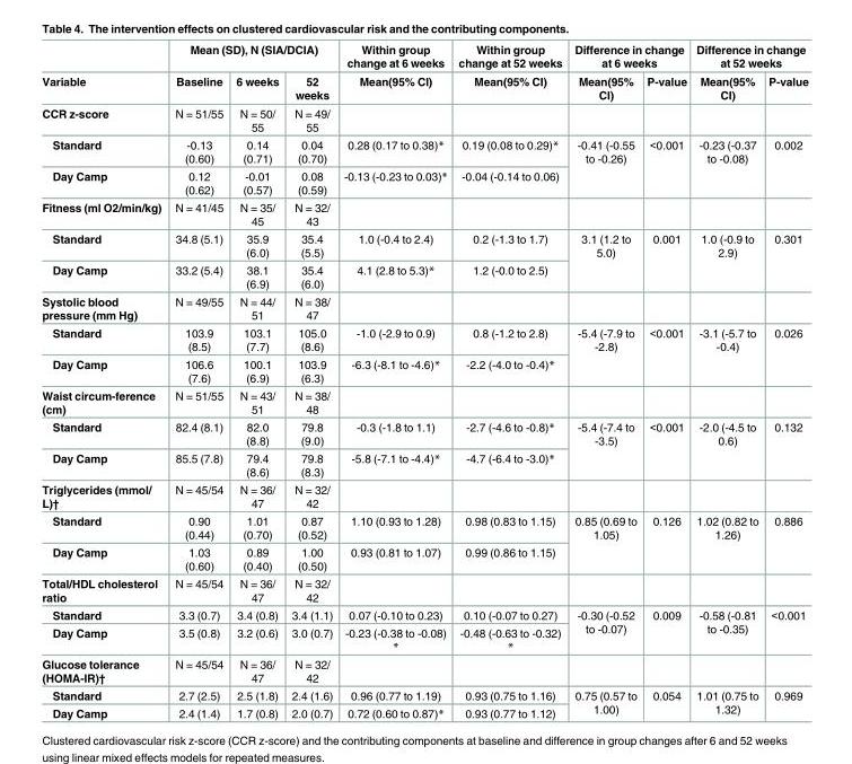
<table><thead><tr><td rowspan="2">Variable</td><td colspan="3">Mean (SD), N (SIA/DCIA)</td><td rowspan="2">Within group change at 6 weeks Mean(95% CI)</td><td rowspan="2">Within group change at 52 weeks Mean(95% CI)</td><td colspan="2">Difference in change at 6 weeks</td><td colspan="2">Difference in change at 52 weeks</td></tr><tr><td>Baseline</td><td>6 weeks</td><td>52 weeks</td><td>Mean(95% CI)</td><td>P-value</td><td>Mean(95% CI)</td><td>P-value</td></tr></thead><tbody><tr><td>CCR z-score</td><td>N = 51/55</td><td>N = 50/ 55</td><td>N = 49/ 55</td><td></td><td></td><td></td><td></td><td></td><td></td></tr><tr><td>Standard</td><td>-0.13 (0.60)</td><td>0.14 (0.71)</td><td>0.04 (0.70)</td><td>0.28 (0.17 to 0.38)*</td><td>0.19 (0.08 to 0.29)*</td><td rowspan="2">-0.41 (-0.55 to -0.26)</td><td rowspan="2">&lt;0.001</td><td rowspan="2">-0.23 (-0.37 to -0.08)</td><td rowspan="2">0.002</td></tr><tr><td>Day Camp</td><td>0.12 (0.62)</td><td>-0.01 (0.57)</td><td>0.08 (0.59)</td><td>-0.13 (-0.23 to 0.03)*</td><td>-0.04 (-0.14 to 0.06)</td></tr><tr><td>Fitness (ml O2/min/kg)</td><td>N = 41/45</td><td>N = 35/ 45</td><td>N = 32/ 43</td><td></td><td></td><td></td><td></td><td></td><td></td></tr><tr><td>Standard</td><td>34.8 (5.1)</td><td>35.9 (6.0)</td><td>35.4 (5.5)</td><td>1.0 (-0.4 to 2.4)</td><td>0.2 (-1.3 to 1.7)</td><td rowspan="2">3.1 (1.2 to 5.0)</td><td rowspan="2">0.001</td><td rowspan="2">1.0 (-0.9 to 2.9)</td><td rowspan="2">0.301</td></tr><tr><td>Day Camp</td><td>33.2 (5.4)</td><td>38.1 (6.9)</td><td>35.4 (6.0)</td><td>4.1 (2.8 to 5.3)*</td><td>1.2 (-0.0 to 2.5)</td></tr><tr><td>Systolic blood pressure (mm Hg)</td><td>N = 49/55</td><td>N = 44/ 51</td><td>N = 38/ 47</td><td></td><td></td><td></td><td></td><td></td><td></td></tr><tr><td>Standard</td><td>103.9 (8.5)</td><td>103.1 (7.7)</td><td>105.0 (8.6)</td><td>-1.0 (-2.9 to 0.9)</td><td>0.8 (-1.2 to 2.8)</td><td rowspan="2">-5.4 (-7.9 to -2.8)</td><td rowspan="2">&lt;0.001</td><td rowspan="2">-3.1 (-5.7 to -0.4)</td><td rowspan="2">0.026</td></tr><tr><td>Day Camp</td><td>106.6 (7.6)</td><td>100.1 (6.9)</td><td>103.9 (6.3)</td><td>-6.3 (-8.1 to -4.6)*</td><td>-2.2 (-4.0 to -0.4)*</td></tr><tr><td>Waist circum-ference (cm)</td><td>N = 51/55</td><td>N = 43/ 51</td><td>N = 38/ 48</td><td></td><td></td><td></td><td></td><td></td><td></td></tr><tr><td>Standard</td><td>82.4 (8.1)</td><td>82.0 (8.8)</td><td>79.8 (9.0)</td><td>-0.3 (-1.8 to 1.1)</td><td>-2.7 (-4.6 to -0.8)*</td><td rowspan="2">-5.4 (-7.4 to -3.5)</td><td rowspan="2">&lt;0.001</td><td rowspan="2">-2.0 (-4.5 to 0.6)</td><td rowspan="2">0.132</td></tr><tr><td>Day Camp</td><td>85.5 (7.8)</td><td>79.4 (8.6)</td><td>79.8 (8.3)</td><td>-5.8 (-7.1 to -4.4)*</td><td>-4.7 (-6.4 to -3.0)*</td></tr><tr><td>Triglycerides (mmol/ L)†</td><td>N = 45/54</td><td>N = 36/ 47</td><td>N = 32/ 42</td><td></td><td></td><td></td><td></td><td></td><td></td></tr><tr><td>Standard</td><td>0.90 (0.44)</td><td>1.01 (0.70)</td><td>0.87 (0.52)</td><td>1.10 (0.93 to 1.28)</td><td>0.98 (0.83 to 1.15)</td><td rowspan="2">0.85 (0.69 to 1.05)</td><td rowspan="2">0.126</td><td rowspan="2">1.02 (0.82 to 1.26)</td><td rowspan="2">0.886</td></tr><tr><td>Day Camp</td><td>1.03 (0.60)</td><td>0.89 (0.40)</td><td>1.00 (0.50)</td><td>0.93 (0.81 to 1.07)</td><td>0.99 (0.86 to 1.15)</td></tr><tr><td>Total/HDL cholesterol ratio</td><td>N = 45/54</td><td>N = 36/ 47</td><td>N = 32/ 42</td><td></td><td></td><td></td><td></td><td></td><td></td></tr><tr><td>Standard</td><td>3.3 (0.7)</td><td>3.4 (0.8)</td><td>3.4 (1.1)</td><td>0.07 (-0.10 to 0.23)</td><td>0.10 (-0.07 to 0.27)</td><td rowspan="2">-0.30 (-0.52 to -0.07)</td><td rowspan="2">0.009</td><td rowspan="2">-0.58 (-0.81 to -0.35)</td><td rowspan="2">&lt;0.001</td></tr><tr><td>Day Camp</td><td>3.5 (0.8)</td><td>3.2 (0.6)</td><td>3.0 (0.7)</td><td>-0.23 (-0.38 to -0.08) *</td><td>-0.48 (-0.63 to -0.32) *</td></tr><tr><td>Glucose tolerance (HOMA-IR)†</td><td>N = 45/54</td><td>N = 36/ 47</td><td>N = 32/ 42</td><td></td><td></td><td></td><td></td><td></td><td></td></tr><tr><td>Standard</td><td>2.7 (2.5)</td><td>2.5 (1.8)</td><td>2.4 (1.6)</td><td>0.96 (0.77 to 1.19)</td><td>0.93 (0.75 to 1.16)</td><td rowspan="2">0.75 (0.57 to 1.00)</td><td rowspan="2">0.054</td><td rowspan="2">1.01 (0.75 to 1.32)</td><td rowspan="2">0.969</td></tr><tr><td>Day Camp</td><td>2.4 (1.4)</td><td>1.7 (0.8)</td><td>2.0 (0.7)</td><td>0.72 (0.60 to 0.87)*</td><td>0.93 (0.77 to 1.12)</td></tr></tbody></table>